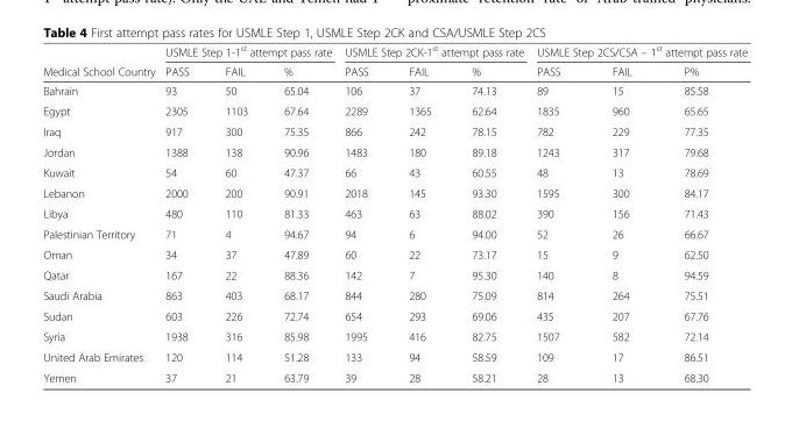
<table><thead><tr><td rowspan="2">Medical School Country</td><td colspan="3">USMLE Step 1-1<sup>st</sup> attempt pass rate</td><td colspan="3">USMLE Step 2CK-1<sup>st</sup> attempt pass rate</td><td colspan="3">USMLE Step 2CS/CSA – 1<sup>st</sup> attempt pass rate</td></tr><tr><td>PASS</td><td>FAIL</td><td>%</td><td>PASS</td><td>FAIL</td><td>%</td><td>PASS</td><td>FAIL</td><td>P%</td></tr></thead><tbody><tr><td>Bahrain</td><td>93</td><td>50</td><td>65.04</td><td>106</td><td>37</td><td>74.13</td><td>89</td><td>15</td><td>85.58</td></tr><tr><td>Egypt</td><td>2305</td><td>1103</td><td>67.64</td><td>2289</td><td>1365</td><td>62.64</td><td>1835</td><td>960</td><td>65.65</td></tr><tr><td>Iraq</td><td>917</td><td>300</td><td>75.35</td><td>866</td><td>242</td><td>78.15</td><td>782</td><td>229</td><td>77.35</td></tr><tr><td>Jordan</td><td>1388</td><td>138</td><td>90.96</td><td>1483</td><td>180</td><td>89.18</td><td>1243</td><td>317</td><td>79.68</td></tr><tr><td>Kuwait</td><td>54</td><td>60</td><td>47.37</td><td>66</td><td>43</td><td>60.55</td><td>48</td><td>13</td><td>78.69</td></tr><tr><td>Lebanon</td><td>2000</td><td>200</td><td>90.91</td><td>2018</td><td>145</td><td>93.30</td><td>1595</td><td>300</td><td>84.17</td></tr><tr><td>Libya</td><td>480</td><td>110</td><td>81.33</td><td>463</td><td>63</td><td>88.02</td><td>390</td><td>156</td><td>71.43</td></tr><tr><td>Palestinian Territory</td><td>71</td><td>4</td><td>94.67</td><td>94</td><td>6</td><td>94.00</td><td>52</td><td>26</td><td>66.67</td></tr><tr><td>Oman</td><td>34</td><td>37</td><td>47.89</td><td>60</td><td>22</td><td>73.17</td><td>15</td><td>9</td><td>62.50</td></tr><tr><td>Qatar</td><td>167</td><td>22</td><td>88.36</td><td>142</td><td>7</td><td>95.30</td><td>140</td><td>8</td><td>94.59</td></tr><tr><td>Saudi Arabia</td><td>863</td><td>403</td><td>68.17</td><td>844</td><td>280</td><td>75.09</td><td>814</td><td>264</td><td>75.51</td></tr><tr><td>Sudan</td><td>603</td><td>226</td><td>72.74</td><td>654</td><td>293</td><td>69.06</td><td>435</td><td>207</td><td>67.76</td></tr><tr><td>Syria</td><td>1938</td><td>316</td><td>85.98</td><td>1995</td><td>416</td><td>82.75</td><td>1507</td><td>582</td><td>72.14</td></tr><tr><td>United Arab Emirates</td><td>120</td><td>114</td><td>51.28</td><td>133</td><td>94</td><td>58.59</td><td>109</td><td>17</td><td>86.51</td></tr><tr><td>Yemen</td><td>37</td><td>21</td><td>63.79</td><td>39</td><td>28</td><td>58.21</td><td>28</td><td>13</td><td>68.30</td></tr></tbody></table>